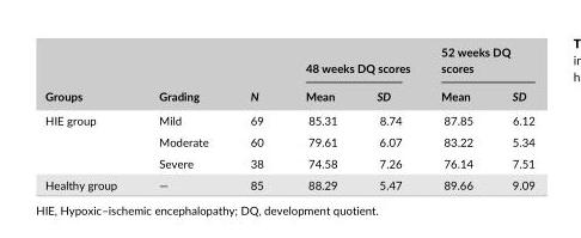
<table><thead><tr><td rowspan="2">Groups</td><td rowspan="2">Grading</td><td rowspan="2">N</td><td colspan="2">48 weeks DQ scores</td><td colspan="2">52 weeks DQ scores</td></tr><tr><td>Mean</td><td>SD</td><td>Mean</td><td>SD</td></tr></thead><tbody><tr><td rowspan="3">HIE group</td><td>Mild</td><td>69</td><td>85.31</td><td>8.74</td><td>87.85</td><td>6.12</td></tr><tr><td>Moderate</td><td>60</td><td>79.61</td><td>6.07</td><td>83.22</td><td>5.34</td></tr><tr><td>Severe</td><td>38</td><td>74.58</td><td>7.26</td><td>76.14</td><td>7.51</td></tr><tr><td>Healthy group</td><td>—</td><td>85</td><td>88.29</td><td>5.47</td><td>89.66</td><td>9.09</td></tr></tbody></table>